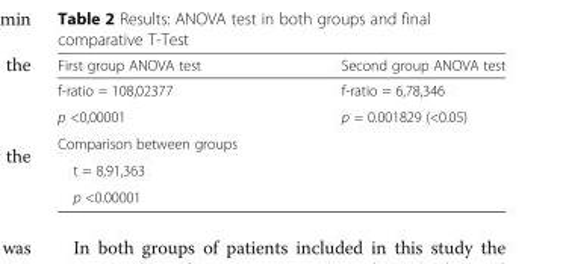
<table><thead><tr><td>First group ANOVA test</td><td>Second group ANOVA test</td></tr></thead><tbody><tr><td>f-ratio = 108,02377</td><td>f-ratio = 6,78,346</td></tr><tr><td>p &lt;0,00001</td><td>p = 0.001829 (&lt;0.05)</td></tr><tr><td colspan="2">Comparison between groups</td></tr><tr><td colspan="2">t = 8,91,363</td></tr><tr><td colspan="2">p &lt;0.00001</td></tr></tbody></table>